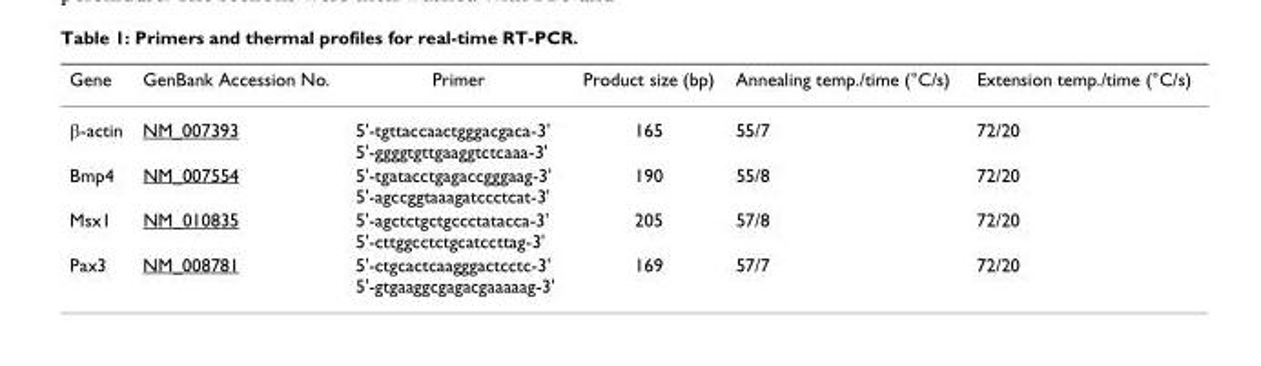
<table><thead><tr><td>Gene</td><td>GenBank Accession No.</td><td>Primer</td><td>Product size (bp)</td><td>Annealing temp./time (°C/s)</td><td>Extension temp./time (°C/s)</td></tr></thead><tbody><tr><td>β-actin</td><td>NM_007393</td><td>5&#x27;-tgttaccaactgggacgaca-3&#x27; 5&#x27;-ggggtgttgaaggtctcaaa-3&#x27;</td><td>165</td><td>55/7</td><td>72/20</td></tr><tr><td>Bmp4</td><td>NM_007554</td><td>5&#x27;-tgatacctgagaccgggaag-3&#x27; 5&#x27;-agccggtaaagatccctcat-3&#x27;</td><td>190</td><td>55/8</td><td>72/20</td></tr><tr><td>Msx1</td><td>NM_010835</td><td>5&#x27;-agctctgctgccctatacca-3&#x27; 5&#x27;-cttggcctctgcatccttag-3&#x27;</td><td>205</td><td>57/8</td><td>72/20</td></tr><tr><td>Pax3</td><td>NM_008781</td><td>5&#x27;-ctgcactcaagggactcctc-3&#x27; 5&#x27;-gtgaaggcgagacgaaaaag-3&#x27;</td><td>169</td><td>57/7</td><td>72/20</td></tr></tbody></table>